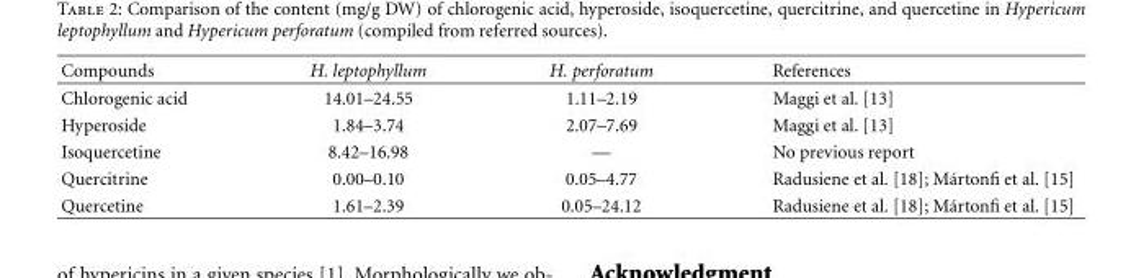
<table><thead><tr><td>Compounds</td><td>H. leptophyllum</td><td>H. perforatum</td><td>References</td></tr></thead><tbody><tr><td>Chlorogenic acid</td><td>14.01–24.55</td><td>1.11–2.19</td><td>Maggi et al. [13]</td></tr><tr><td>Hyperoside</td><td>1.84–3.74</td><td>2.07–7.69</td><td>Maggi et al. [13]</td></tr><tr><td>Isoquercetine</td><td>8.42–16.98</td><td>—</td><td>No previous report</td></tr><tr><td>Quercitrine</td><td>0.00–0.10</td><td>0.05–4.77</td><td>Radusiene et al. [18]; M´artonfi et al. [15]</td></tr><tr><td>Quercetine</td><td>1.61–2.39</td><td>0.05–24.12</td><td>Radusiene et al. [18]; M´artonfi et al. [15]</td></tr></tbody></table>